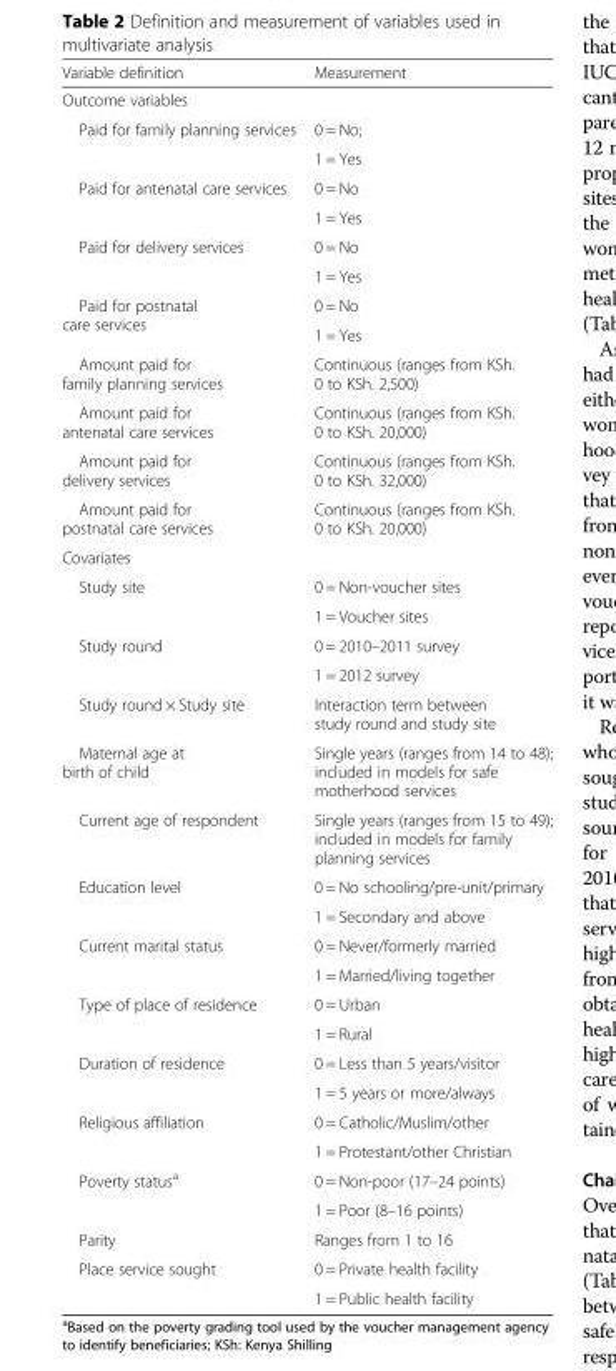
<table><thead><tr><td>Variable definition</td><td>Measurement</td></tr></thead><tbody><tr><td colspan="2">Outcome variables</td></tr><tr><td rowspan="2">Paid for family planning services</td><td>0 = No;</td></tr><tr><td>1 = Yes</td></tr><tr><td rowspan="2">Paid for antenatal care services</td><td>0 = No</td></tr><tr><td>1 = Yes</td></tr><tr><td rowspan="2">Paid for delivery services</td><td>0 = No</td></tr><tr><td>1 = Yes</td></tr><tr><td rowspan="2">Paid for postnatal care services</td><td>0 = No</td></tr><tr><td>1 = Yes</td></tr><tr><td>Amount paid for family planning services</td><td>Continuous (ranges from KSh. 0 to KSh. 2,500)</td></tr><tr><td>Amount paid for antenatal care services</td><td>Continuous (ranges from KSh. 0 to KSh. 20,000)</td></tr><tr><td>Amount paid for delivery services</td><td>Continuous (ranges from KSh. 0 to KSh. 32,000)</td></tr><tr><td>Amount paid for postnatal care services</td><td>Continuous (ranges from KSh. 0 to KSh. 20,000)</td></tr><tr><td colspan="2">Covariates</td></tr><tr><td rowspan="2">Study site</td><td>0 = Non-voucher sites</td></tr><tr><td>1 = Voucher sites</td></tr><tr><td rowspan="2">Study round</td><td>0 = 2010–2011 survey</td></tr><tr><td>1 = 2012 survey</td></tr><tr><td>Study round × Study site</td><td>Interaction term between study round and study site</td></tr><tr><td>Maternal age at birth of child</td><td>Single years (ranges from 14 to 48); included in models for safe motherhood services</td></tr><tr><td>Current age of respondent</td><td>Single years (ranges from 15 to 49); included in models for family planning services</td></tr><tr><td rowspan="2">Education level</td><td>0 = No schooling/pre-unit/primary</td></tr><tr><td>1 = Secondary and above</td></tr><tr><td rowspan="2">Current marital status</td><td>0 = Never/formerly married</td></tr><tr><td>1 = Married/living together</td></tr><tr><td rowspan="2">Type of place of residence</td><td>0 = Urban</td></tr><tr><td>1 = Rural</td></tr><tr><td rowspan="2">Duration of residence</td><td>0 = Less than 5 years/visitor</td></tr><tr><td>1 = 5 years or more/always</td></tr><tr><td rowspan="2">Religious affiliation</td><td>0 = Catholic/Muslim/other</td></tr><tr><td>1 = Protestant/other Christian</td></tr><tr><td rowspan="2">Poverty status<sup>a</sup></td><td>0 = Non-poor (17–24 points)</td></tr><tr><td>1 = Poor (8–16 points)</td></tr><tr><td>Parity</td><td>Ranges from 1 to 16</td></tr><tr><td rowspan="2">Place service sought</td><td>0 = Private health facility</td></tr><tr><td>1 = Public health facility</td></tr></tbody></table>